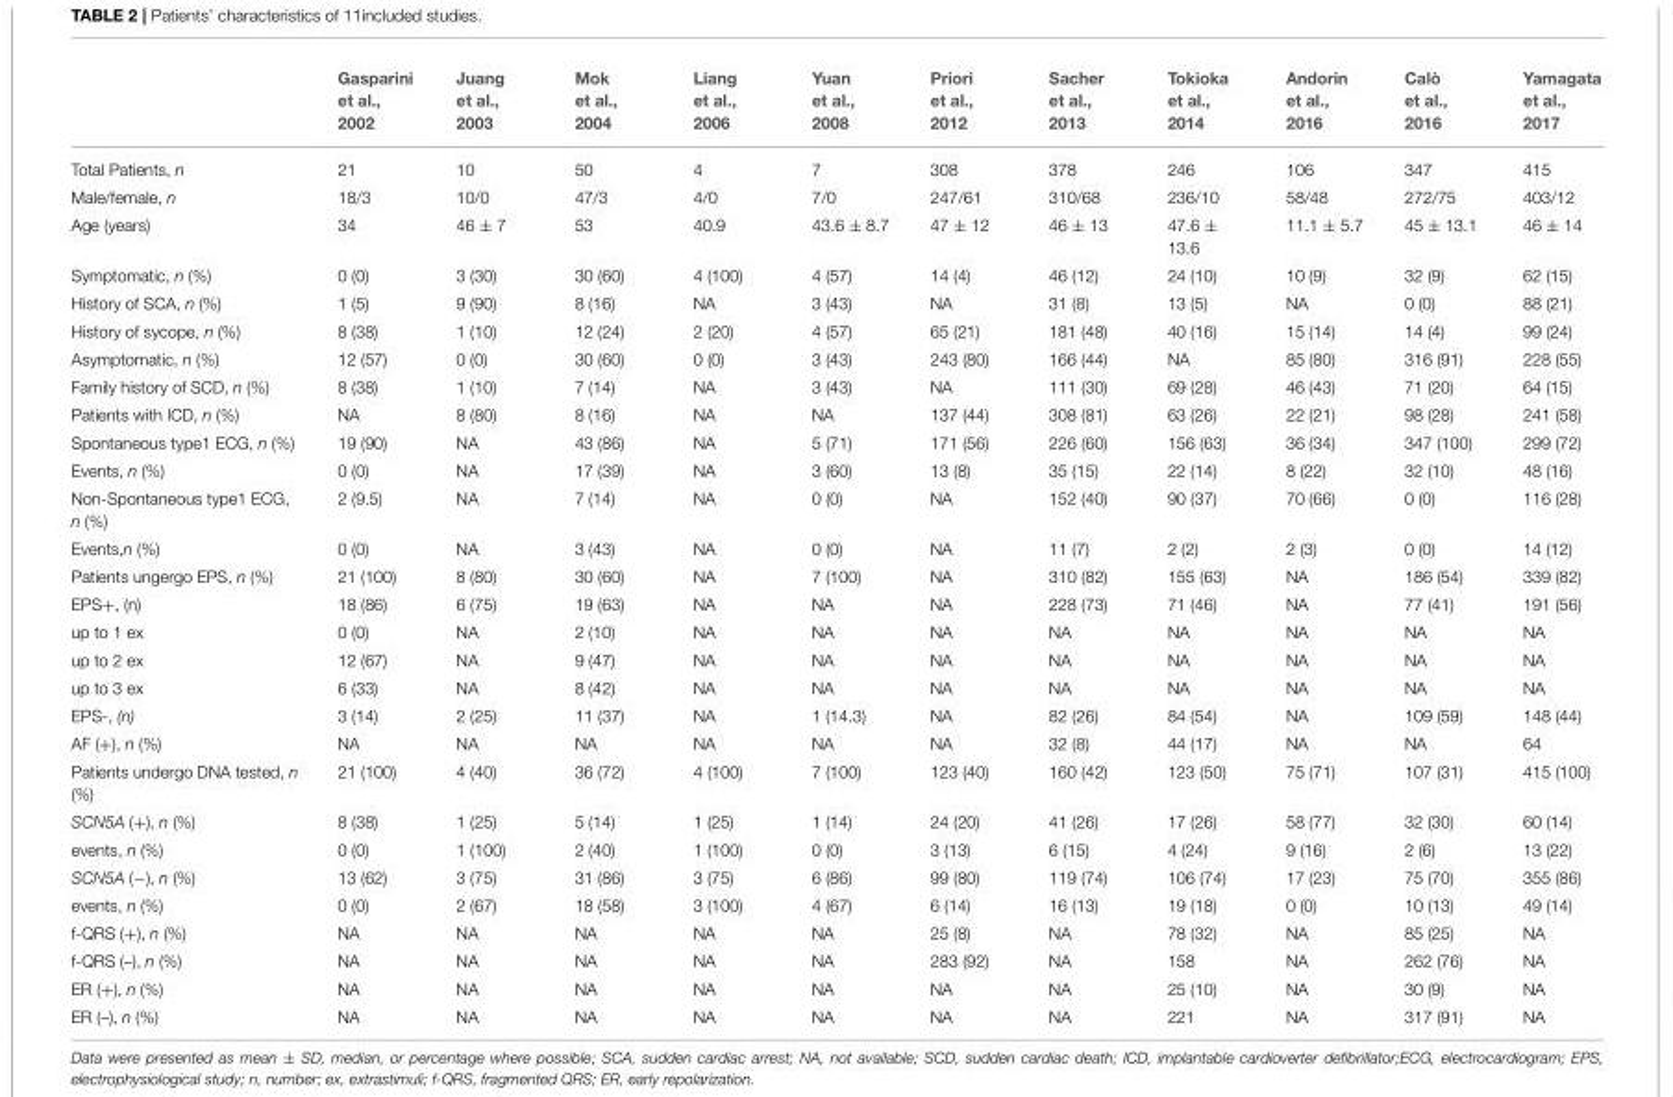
<table><thead><tr><td></td><td>Gasparini et al., 2002</td><td>Juang et al., 2003</td><td>Mok et al., 2004</td><td>Liang et al., 2006</td><td>Yuan et al., 2008</td><td>Priori et al., 2012</td><td>Sacher et al., 2013</td><td>Tokioka et al., 2014</td><td>Andorin et al., 2016</td><td>Calò et al., 2016</td><td>Yamagata et al., 2017</td></tr></thead><tbody><tr><td>Total Patients, n</td><td>21</td><td>10</td><td>50</td><td>4</td><td>7</td><td>308</td><td>378</td><td>246</td><td>106</td><td>347</td><td>415</td></tr><tr><td>Male/female, n</td><td>18/3</td><td>10/0</td><td>47/3</td><td>4/0</td><td>7/0</td><td>247/61</td><td>310/68</td><td>236/10</td><td>58/48</td><td>272/75</td><td>403/12</td></tr><tr><td>Age (years)</td><td>34</td><td>46 ± 7</td><td>53</td><td>40.9</td><td>43.6 ± 8.7</td><td>47 ± 12</td><td>46 ± 13</td><td>47.6 ± 13.6</td><td>11.1 ± 5.7</td><td>45 ± 13.1</td><td>46 ± 14</td></tr><tr><td>Symptomatic, n (%)</td><td>0 (0)</td><td>3 (30)</td><td>30 (60)</td><td>4 (100)</td><td>4 (57)</td><td>14 (4)</td><td>46 (12)</td><td>24 (10)</td><td>10 (9)</td><td>32 (9)</td><td>62 (15)</td></tr><tr><td>History of SCA, n (%)</td><td>1 (5)</td><td>9 (90)</td><td>8 (16)</td><td>NA</td><td>3 (43)</td><td>NA</td><td>31 (8)</td><td>13 (5)</td><td>NA</td><td>0 (0)</td><td>88 (21)</td></tr><tr><td>History of sycope, n (%)</td><td>8 (38)</td><td>1 (10)</td><td>12 (24)</td><td>2 (20)</td><td>4 (57)</td><td>65 (21)</td><td>181 (48)</td><td>40 (16)</td><td>15 (14)</td><td>14 (4)</td><td>99 (24)</td></tr><tr><td>Asymptomatic, n (%)</td><td>12 (57)</td><td>0 (0)</td><td>30 (60)</td><td>0 (0)</td><td>3 (43)</td><td>243 (80)</td><td>166 (44)</td><td>NA</td><td>85 (80)</td><td>316 (91)</td><td>228 (55)</td></tr><tr><td>Family history of SCD, n (%)</td><td>8 (38)</td><td>1 (10)</td><td>7 (14)</td><td>NA</td><td>3 (43)</td><td>NA</td><td>111 (30)</td><td>69 (28)</td><td>46 (43)</td><td>71 (20)</td><td>64 (15)</td></tr><tr><td>Patients with ICD, n (%)</td><td>NA</td><td>8 (80)</td><td>8 (16)</td><td>NA</td><td>NA</td><td>137 (44)</td><td>308 (81)</td><td>63 (26)</td><td>22 (21)</td><td>98 (28)</td><td>241 (58)</td></tr><tr><td>Spontaneous type1 ECG, n (%)</td><td>19 (90)</td><td>NA</td><td>43 (86)</td><td>NA</td><td>5 (71)</td><td>171 (56)</td><td>226 (60)</td><td>156 (63)</td><td>36 (34)</td><td>347 (100)</td><td>299 (72)</td></tr><tr><td>Events, n (%)</td><td>0 (0)</td><td>NA</td><td>17 (39)</td><td>NA</td><td>3 (60)</td><td>13 (8)</td><td>35 (15)</td><td>22 (14)</td><td>8 (22)</td><td>32 (10)</td><td>48 (16)</td></tr><tr><td>Non-Spontaneous type1 ECG, n (%)</td><td>2 (9.5)</td><td>NA</td><td>7 (14)</td><td>NA</td><td>0 (0)</td><td>NA</td><td>152 (40)</td><td>90 (37)</td><td>70 (66)</td><td>0 (0)</td><td>116 (28)</td></tr><tr><td>Events,n (%)</td><td>0 (0)</td><td>NA</td><td>3 (43)</td><td>NA</td><td>0 (0)</td><td>NA</td><td>11 (7)</td><td>2 (2)</td><td>2 (3)</td><td>0 (0)</td><td>14 (12)</td></tr><tr><td>Patients ungergo EPS, n (%)</td><td>21 (100)</td><td>8 (80)</td><td>30 (60)</td><td>NA</td><td>7 (100)</td><td>NA</td><td>310 (82)</td><td>155 (63)</td><td>NA</td><td>186 (54)</td><td>339 (82)</td></tr><tr><td>EPS+, (n)</td><td>18 (86)</td><td>6 (75)</td><td>19 (63)</td><td>NA</td><td>NA</td><td>NA</td><td>228 (73)</td><td>71 (46)</td><td>NA</td><td>77 (41)</td><td>191 (56)</td></tr><tr><td>up to 1 ex</td><td>0 (0)</td><td>NA</td><td>2 (10)</td><td>NA</td><td>NA</td><td>NA</td><td>NA</td><td>NA</td><td>NA</td><td>NA</td><td>NA</td></tr><tr><td>up to 2 ex</td><td>12 (67)</td><td>NA</td><td>9 (47)</td><td>NA</td><td>NA</td><td>NA</td><td>NA</td><td>NA</td><td>NA</td><td>NA</td><td>NA</td></tr><tr><td>up to 3 ex</td><td>6 (33)</td><td>NA</td><td>8 (42)</td><td>NA</td><td>NA</td><td>NA</td><td>NA</td><td>NA</td><td>NA</td><td>NA</td><td>NA</td></tr><tr><td>EPS-, (n)</td><td>3 (14)</td><td>2 (25)</td><td>11 (37)</td><td>NA</td><td>1 (14.3)</td><td>NA</td><td>82 (26)</td><td>84 (54)</td><td>NA</td><td>109 (59)</td><td>148 (44)</td></tr><tr><td>AF (+), n (%)</td><td>NA</td><td>NA</td><td>NA</td><td>NA</td><td>NA</td><td>NA</td><td>32 (8)</td><td>44 (17)</td><td>NA</td><td>NA</td><td>64</td></tr><tr><td>Patients undergo DNA tested, n (%)</td><td>21 (100)</td><td>4 (40)</td><td>36 (72)</td><td>4 (100)</td><td>7 (100)</td><td>123 (40)</td><td>160 (42)</td><td>123 (50)</td><td>75 (71)</td><td>107 (31)</td><td>415 (100)</td></tr><tr><td>SCN5A (+), n (%)</td><td>8 (38)</td><td>1 (25)</td><td>5 (14)</td><td>1 (25)</td><td>1 (14)</td><td>24 (20)</td><td>41 (26)</td><td>17 (26)</td><td>58 (77)</td><td>32 (30)</td><td>60 (14)</td></tr><tr><td>events, n (%)</td><td>0 (0)</td><td>1 (100)</td><td>2 (40)</td><td>1 (100)</td><td>0 (0)</td><td>3 (13)</td><td>6 (15)</td><td>4 (24)</td><td>9 (16)</td><td>2 (6)</td><td>13 (22)</td></tr><tr><td>SCN5A (−), n (%)</td><td>13 (62)</td><td>3 (75)</td><td>31 (86)</td><td>3 (75)</td><td>6 (86)</td><td>99 (80)</td><td>119 (74)</td><td>106 (74)</td><td>17 (23)</td><td>75 (70)</td><td>355 (86)</td></tr><tr><td>events, n (%)</td><td>0 (0)</td><td>2 (67)</td><td>18 (58)</td><td>3 (100)</td><td>4 (67)</td><td>6 (14)</td><td>16 (13)</td><td>19 (18)</td><td>0 (0)</td><td>10 (13)</td><td>49 (14)</td></tr><tr><td>f-QRS (+), n (%)</td><td>NA</td><td>NA</td><td>NA</td><td>NA</td><td>NA</td><td>25 (8)</td><td>NA</td><td>78 (32)</td><td>NA</td><td>85 (25)</td><td>NA</td></tr><tr><td>f-QRS (–), n (%)</td><td>NA</td><td>NA</td><td>NA</td><td>NA</td><td>NA</td><td>283 (92)</td><td>NA</td><td>158</td><td>NA</td><td>262 (76)</td><td>NA</td></tr><tr><td>ER (+), n (%)</td><td>NA</td><td>NA</td><td>NA</td><td>NA</td><td>NA</td><td>NA</td><td>NA</td><td>25 (10)</td><td>NA</td><td>30 (9)</td><td>NA</td></tr><tr><td>ER (–), n (%)</td><td>NA</td><td>NA</td><td>NA</td><td>NA</td><td>NA</td><td>NA</td><td>NA</td><td>221</td><td>NA</td><td>317 (91)</td><td>NA</td></tr></tbody></table>